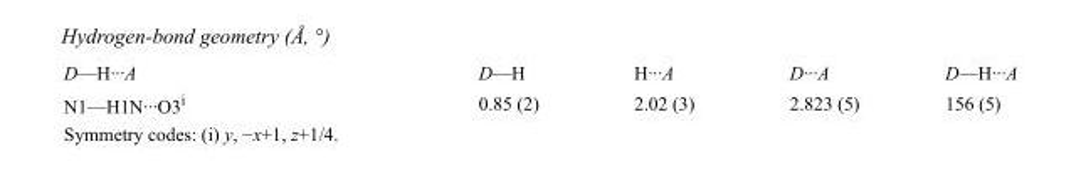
<table><tbody><tr><td>D—H···A</td><td>D—H</td><td>H···A</td><td>D···A</td><td>D—H···A</td></tr><tr><td>N1—H1N···O3<sup>i</sup></td><td>0.85 (2)</td><td>2.02 (3)</td><td>2.823 (5)</td><td>156 (5)</td></tr></tbody></table>